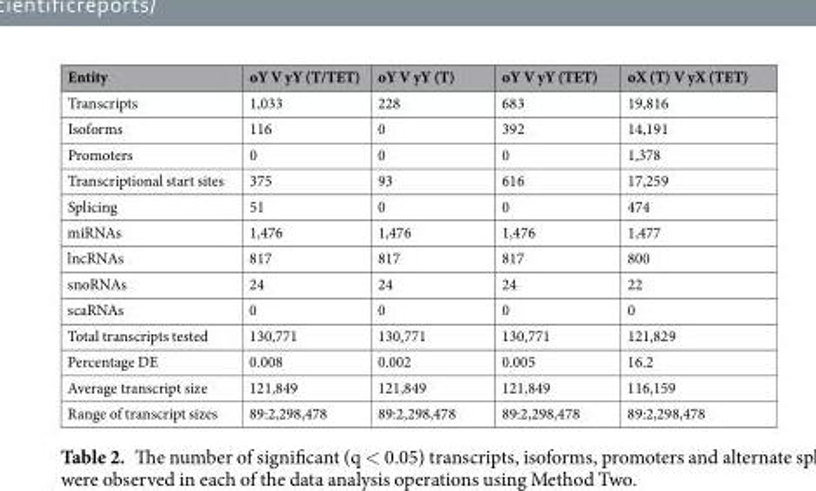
<table><thead><tr><td>Entity</td><td>oY V yY (T/TET)</td><td>oY V yY (T)</td><td>oY V yY (TET)</td><td>oX (T) V yX (TET)</td></tr></thead><tbody><tr><td>Transcripts</td><td>1,033</td><td>228</td><td>683</td><td>19,816</td></tr><tr><td>Isoforms</td><td>116</td><td>0</td><td>392</td><td>14,191</td></tr><tr><td>Promoters</td><td>0</td><td>0</td><td>0</td><td>1,378</td></tr><tr><td>Transcriptional start sites</td><td>375</td><td>93</td><td>616</td><td>17,259</td></tr><tr><td>Splicing</td><td>51</td><td>0</td><td>0</td><td>474</td></tr><tr><td>miRNAs</td><td>1,476</td><td>1,476</td><td>1,476</td><td>1,477</td></tr><tr><td>lncRNAs</td><td>817</td><td>817</td><td>817</td><td>800</td></tr><tr><td>snoRNAs</td><td>24</td><td>24</td><td>24</td><td>22</td></tr><tr><td>scaRNAs</td><td>0</td><td>0</td><td>0</td><td>0</td></tr><tr><td>Total transcripts tested</td><td>130,771</td><td>130,771</td><td>130,771</td><td>121,829</td></tr><tr><td>Percentage DE</td><td>0.008</td><td>0.002</td><td>0.005</td><td>16.2</td></tr><tr><td>Average transcript size</td><td>121,849</td><td>121,849</td><td>121,849</td><td>116,159</td></tr><tr><td>Range of transcript sizes</td><td>89:2,298,478</td><td>89:2,298,478</td><td>89:2,298,478</td><td>89:2,298,478</td></tr></tbody></table>